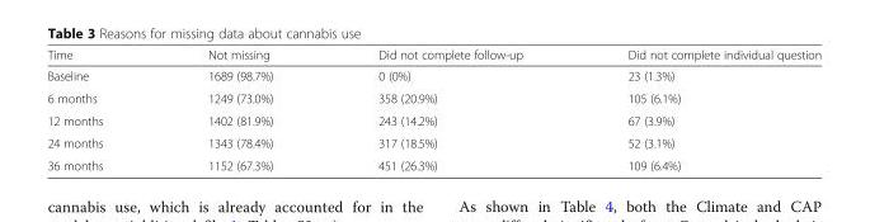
<table><thead><tr><td>Time</td><td>Not missing</td><td>Did not complete follow-up</td><td>Did not complete individual question</td></tr></thead><tbody><tr><td>Baseline</td><td>1689 (98.7%)</td><td>0 (0%)</td><td>23 (1.3%)</td></tr><tr><td>6 months</td><td>1249 (73.0%)</td><td>358 (20.9%)</td><td>105 (6.1%)</td></tr><tr><td>12 months</td><td>1402 (81.9%)</td><td>243 (14.2%)</td><td>67 (3.9%)</td></tr><tr><td>24 months</td><td>1343 (78.4%)</td><td>317 (18.5%)</td><td>52 (3.1%)</td></tr><tr><td>36 months</td><td>1152 (67.3%)</td><td>451 (26.3%)</td><td>109 (6.4%)</td></tr></tbody></table>